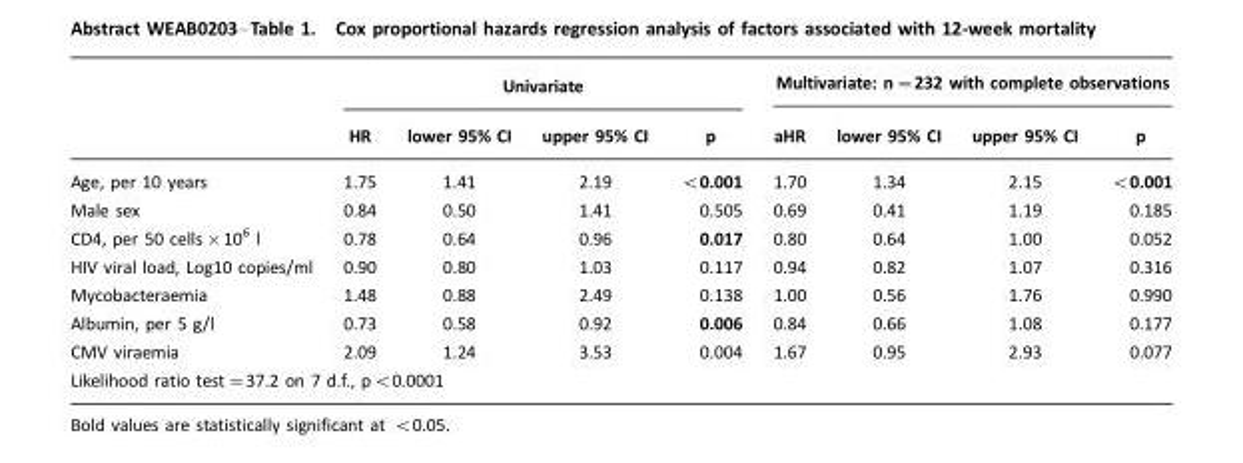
<table><thead><tr><td rowspan="2"></td><td colspan="4">Univariate</td><td colspan="4">Multivariate: n=232 with complete observations</td></tr><tr><td>HR</td><td>lower 95% CI</td><td>upper 95% CI</td><td>p</td><td>aHR</td><td>lower 95% CI</td><td>upper 95% CI</td><td>p</td></tr></thead><tbody><tr><td>Age, per 10 years</td><td>1.75</td><td>1.41</td><td>2.19</td><td>&lt;0.001</td><td>1.70</td><td>1.34</td><td>2.15</td><td>&lt;0.001</td></tr><tr><td>Male sex</td><td>0.84</td><td>0.50</td><td>1.41</td><td>0.505</td><td>0.69</td><td>0.41</td><td>1.19</td><td>0.185</td></tr><tr><td>CD4, per 50 cells×106 l</td><td>0.78</td><td>0.64</td><td>0.96</td><td>0.017</td><td>0.80</td><td>0.64</td><td>1.00</td><td>0.052</td></tr><tr><td>HIV viral load, Log10 copies/ml</td><td>0.90</td><td>0.80</td><td>1.03</td><td>0.117</td><td>0.94</td><td>0.82</td><td>1.07</td><td>0.316</td></tr><tr><td>Mycobacteraemia</td><td>1.48</td><td>0.88</td><td>2.49</td><td>0.138</td><td>1.00</td><td>0.56</td><td>1.76</td><td>0.990</td></tr><tr><td>Albumin, per 5 g/l</td><td>0.73</td><td>0.58</td><td>0.92</td><td>0.006</td><td>0.84</td><td>0.66</td><td>1.08</td><td>0.177</td></tr><tr><td>CMV viraemia</td><td>2.09</td><td>1.24</td><td>3.53</td><td>0.004</td><td>1.67</td><td>0.95</td><td>2.93</td><td>0.077</td></tr><tr><td colspan="9">Likelihood ratio test=37.2 on 7 d.f., p&lt;0.0001</td></tr></tbody></table>